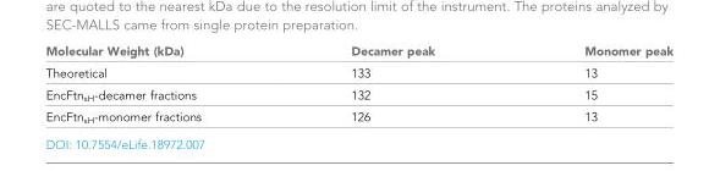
<table><thead><tr><td>Molecular Weight (kDa)</td><td>Decamer peak</td><td>Monomer peak</td></tr></thead><tbody><tr><td>Theoretical</td><td>133</td><td>13</td></tr><tr><td>EncFtn<sub>sH</sub>-decamer fractions</td><td>132</td><td>15</td></tr><tr><td>EncFtn<sub>sH</sub>-monomer fractions</td><td>126</td><td>13</td></tr></tbody></table>